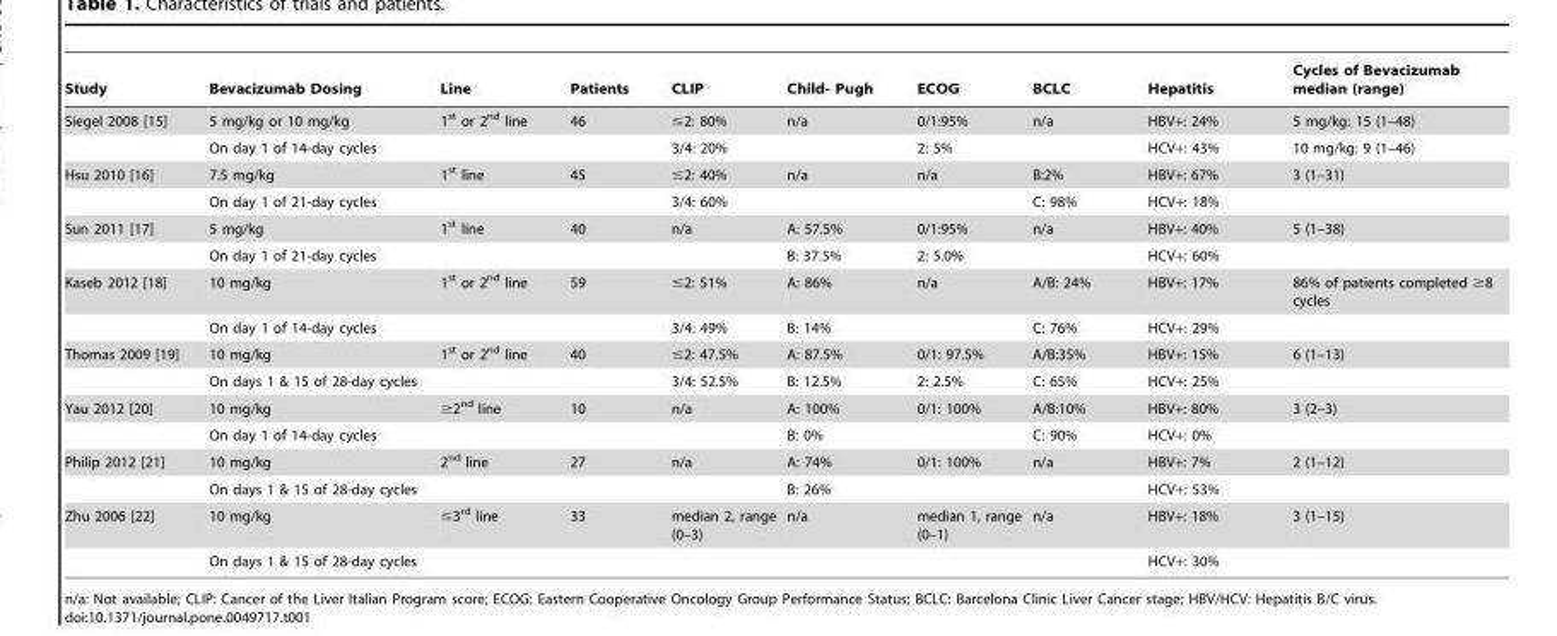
<table><thead><tr><td>Study</td><td>Bevacizumab Dosing</td><td>Line</td><td>Patients</td><td>CLIP</td><td>Child- Pugh</td><td>ECOG</td><td>BCLC</td><td>Hepatitis</td><td>Cycles of Bevacizumab median (range)</td></tr></thead><tbody><tr><td rowspan="2">Siegel 2008 [15]</td><td>5 mg/kg or 10 mg/kg</td><td>1<sup>st</sup> or 2<sup>nd</sup> line</td><td>46</td><td>≤2: 80%</td><td>n/a</td><td>0/1:95%</td><td>n/a</td><td>HBV+: 24%</td><td>5 mg/kg: 15 (1–48)</td></tr><tr><td>On day 1 of 14-day cycles</td><td></td><td></td><td>3/4: 20%</td><td></td><td>2: 5%</td><td></td><td>HCV+: 43%</td><td>10 mg/kg: 9 (1–46)</td></tr><tr><td rowspan="2">Hsu 2010 [16]</td><td>7.5 mg/kg</td><td>1<sup>st</sup> line</td><td>45</td><td>≤2: 40%</td><td>n/a</td><td>n/a</td><td>B:2%</td><td>HBV+: 67%</td><td>3 (1–31)</td></tr><tr><td>On day 1 of 21-day cycles</td><td></td><td></td><td>3/4: 60%</td><td></td><td></td><td>C: 98%</td><td>HCV+: 18%</td><td></td></tr><tr><td rowspan="2">Sun 2011 [17]</td><td>5 mg/kg</td><td>1<sup>st</sup> line</td><td>40</td><td>n/a</td><td>A: 57.5%</td><td>0/1:95%</td><td>n/a</td><td>HBV+: 40%</td><td>5 (1–38)</td></tr><tr><td>On day 1 of 21-day cycles</td><td></td><td></td><td></td><td>B: 37.5%</td><td>2: 5.0%</td><td></td><td>HCV+: 60%</td><td></td></tr><tr><td rowspan="2">Kaseb 2012 [18]</td><td>10 mg/kg</td><td>1<sup>st</sup> or 2<sup>nd</sup> line</td><td>59</td><td>≤2: 51%</td><td>A: 86%</td><td>n/a</td><td>A/B: 24%</td><td>HBV+: 17%</td><td>86% of patients completed ≥8 cycles</td></tr><tr><td>On day 1 of 14-day cycles</td><td></td><td></td><td>3/4: 49%</td><td>B: 14%</td><td></td><td>C: 76%</td><td>HCV+: 29%</td><td></td></tr><tr><td rowspan="2">Thomas 2009 [19]</td><td>10 mg/kg</td><td>1<sup>st</sup> or 2<sup>nd</sup> line</td><td>40</td><td>≤2: 47.5%</td><td>A: 87.5%</td><td>0/1: 97.5%</td><td>A/B:35%</td><td>HBV+: 15%</td><td>6 (1–13)</td></tr><tr><td>On days 1 &amp; 15 of 28-day cycles</td><td></td><td></td><td>3/4: 52.5%</td><td>B: 12.5%</td><td>2: 2.5%</td><td>C: 65%</td><td>HCV+: 25%</td><td></td></tr><tr><td rowspan="2">Yau 2012 [20]</td><td>10 mg/kg</td><td>≥2<sup>nd</sup> line</td><td>10</td><td>n/a</td><td>A: 100%</td><td>0/1: 100%</td><td>A/B:10%</td><td>HBV+: 80%</td><td>3 (2–3)</td></tr><tr><td>On day 1 of 14-day cycles</td><td></td><td></td><td></td><td>B: 0%</td><td></td><td>C: 90%</td><td>HCV+: 0%</td><td></td></tr><tr><td rowspan="2">Philip 2012 [21]</td><td>10 mg/kg</td><td>2<sup>nd</sup> line</td><td>27</td><td>n/a</td><td>A: 74%</td><td>0/1: 100%</td><td>n/a</td><td>HBV+: 7%</td><td>2 (1–12)</td></tr><tr><td>On days 1 &amp; 15 of 28-day cycles</td><td></td><td></td><td></td><td>B: 26%</td><td></td><td></td><td>HCV+: 53%</td><td></td></tr><tr><td rowspan="2">Zhu 2006 [22]</td><td>10 mg/kg</td><td>≤3<sup>rd</sup> line</td><td>33</td><td>median 2, range (0–3)</td><td>n/a</td><td>median 1, range (0–1)</td><td>n/a</td><td>HBV+: 18%</td><td>3 (1–15)</td></tr><tr><td>On days 1 &amp; 15 of 28-day cycles</td><td></td><td></td><td></td><td></td><td></td><td></td><td>HCV+: 30%</td><td></td></tr></tbody></table>